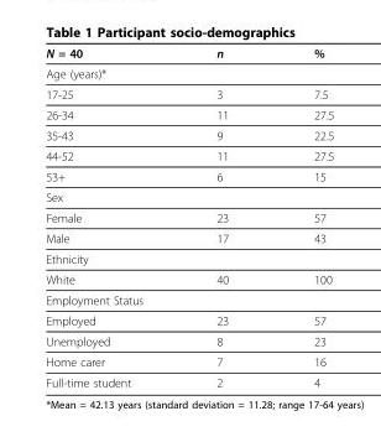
<table><thead><tr><td>N = 40</td><td>n</td><td>%</td></tr></thead><tbody><tr><td colspan="3">Age (years)*</td></tr><tr><td>17-25</td><td>3</td><td>7.5</td></tr><tr><td>26-34</td><td>11</td><td>27.5</td></tr><tr><td>35-43</td><td>9</td><td>22.5</td></tr><tr><td>44-52</td><td>11</td><td>27.5</td></tr><tr><td>53+</td><td>6</td><td>15</td></tr><tr><td colspan="3">Sex</td></tr><tr><td>Female</td><td>23</td><td>57</td></tr><tr><td>Male</td><td>17</td><td>43</td></tr><tr><td colspan="3">Ethnicity</td></tr><tr><td>White</td><td>40</td><td>100</td></tr><tr><td colspan="3">Employment Status</td></tr><tr><td>Employed</td><td>23</td><td>57</td></tr><tr><td>Unemployed</td><td>8</td><td>23</td></tr><tr><td>Home carer</td><td>7</td><td>16</td></tr><tr><td>Full-time student</td><td>2</td><td>4</td></tr></tbody></table>